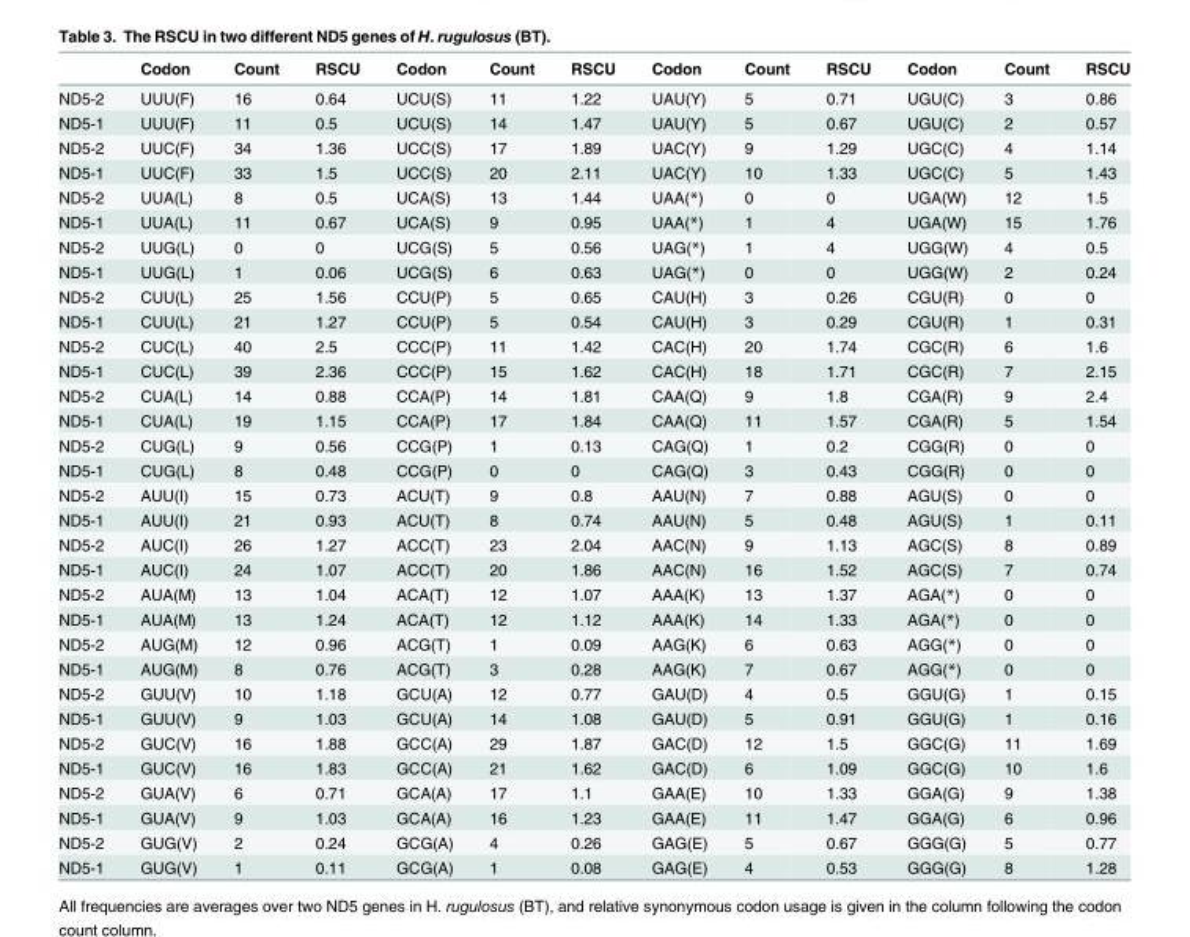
<table><thead><tr><td></td><td>Codon</td><td>Count</td><td>RSCU</td><td>Codon</td><td>Count</td><td>RSCU</td><td>Codon</td><td>Count</td><td>RSCU</td><td>Codon</td><td>Count</td><td>RSCU</td></tr></thead><tbody><tr><td>ND5-2</td><td>UUU(F)</td><td>16</td><td>0.64</td><td>UCU(S)</td><td>11</td><td>1.22</td><td>UAU(Y)</td><td>5</td><td>0.71</td><td>UGU(C)</td><td>3</td><td>0.86</td></tr><tr><td>ND5-1</td><td>UUU(F)</td><td>11</td><td>0.5</td><td>UCU(S)</td><td>14</td><td>1.47</td><td>UAU(Y)</td><td>5</td><td>0.67</td><td>UGU(C)</td><td>2</td><td>0.57</td></tr><tr><td>ND5-2</td><td>UUC(F)</td><td>34</td><td>1.36</td><td>UCC(S)</td><td>17</td><td>1.89</td><td>UAC(Y)</td><td>9</td><td>1.29</td><td>UGC(C)</td><td>4</td><td>1.14</td></tr><tr><td>ND5-1</td><td>UUC(F)</td><td>33</td><td>1.5</td><td>UCC(S)</td><td>20</td><td>2.11</td><td>UAC(Y)</td><td>10</td><td>1.33</td><td>UGC(C)</td><td>5</td><td>1.43</td></tr><tr><td>ND5-2</td><td>UUA(L)</td><td>8</td><td>0.5</td><td>UCA(S)</td><td>13</td><td>1.44</td><td>UAA(*)</td><td>0</td><td>0</td><td>UGA(W)</td><td>12</td><td>1.5</td></tr><tr><td>ND5-1</td><td>UUA(L)</td><td>11</td><td>0.67</td><td>UCA(S)</td><td>9</td><td>0.95</td><td>UAA(*)</td><td>1</td><td>4</td><td>UGA(W)</td><td>15</td><td>1.76</td></tr><tr><td>ND5-2</td><td>UUG(L)</td><td>0</td><td>0</td><td>UCG(S)</td><td>5</td><td>0.56</td><td>UAG(*)</td><td>1</td><td>4</td><td>UGG(W)</td><td>4</td><td>0.5</td></tr><tr><td>ND5-1</td><td>UUG(L)</td><td>1</td><td>0.06</td><td>UCG(S)</td><td>6</td><td>0.63</td><td>UAG(*)</td><td>0</td><td>0</td><td>UGG(W)</td><td>2</td><td>0.24</td></tr><tr><td>ND5-2</td><td>CUU(L)</td><td>25</td><td>1.56</td><td>CCU(P)</td><td>5</td><td>0.65</td><td>CAU(H)</td><td>3</td><td>0.26</td><td>CGU(R)</td><td>0</td><td>0</td></tr><tr><td>ND5-1</td><td>CUU(L)</td><td>21</td><td>1.27</td><td>CCU(P)</td><td>5</td><td>0.54</td><td>CAU(H)</td><td>3</td><td>0.29</td><td>CGU(R)</td><td>1</td><td>0.31</td></tr><tr><td>ND5-2</td><td>CUC(L)</td><td>40</td><td>2.5</td><td>CCC(P)</td><td>11</td><td>1.42</td><td>CAC(H)</td><td>20</td><td>1.74</td><td>CGC(R)</td><td>6</td><td>1.6</td></tr><tr><td>ND5-1</td><td>CUC(L)</td><td>39</td><td>2.36</td><td>CCC(P)</td><td>15</td><td>1.62</td><td>CAC(H)</td><td>18</td><td>1.71</td><td>CGC(R)</td><td>7</td><td>2.15</td></tr><tr><td>ND5-2</td><td>CUA(L)</td><td>14</td><td>0.88</td><td>CCA(P)</td><td>14</td><td>1.81</td><td>CAA(Q)</td><td>9</td><td>1.8</td><td>CGA(R)</td><td>9</td><td>2.4</td></tr><tr><td>ND5-1</td><td>CUA(L)</td><td>19</td><td>1.15</td><td>CCA(P)</td><td>17</td><td>1.84</td><td>CAA(Q)</td><td>11</td><td>1.57</td><td>CGA(R)</td><td>5</td><td>1.54</td></tr><tr><td>ND5-2</td><td>CUG(L)</td><td>9</td><td>0.56</td><td>CCG(P)</td><td>1</td><td>0.13</td><td>CAG(Q)</td><td>1</td><td>0.2</td><td>CGG(R)</td><td>0</td><td>0</td></tr><tr><td>ND5-1</td><td>CUG(L)</td><td>8</td><td>0.48</td><td>CCG(P)</td><td>0</td><td>0</td><td>CAG(Q)</td><td>3</td><td>0.43</td><td>CGG(R)</td><td>0</td><td>0</td></tr><tr><td>ND5-2</td><td>AUU(I)</td><td>15</td><td>0.73</td><td>ACU(T)</td><td>9</td><td>0.8</td><td>AAU(N)</td><td>7</td><td>0.88</td><td>AGU(S)</td><td>0</td><td>0</td></tr><tr><td>ND5-1</td><td>AUU(I)</td><td>21</td><td>0.93</td><td>ACU(T)</td><td>8</td><td>0.74</td><td>AAU(N)</td><td>5</td><td>0.48</td><td>AGU(S)</td><td>1</td><td>0.11</td></tr><tr><td>ND5-2</td><td>AUC(I)</td><td>26</td><td>1.27</td><td>ACC(T)</td><td>23</td><td>2.04</td><td>AAC(N)</td><td>9</td><td>1.13</td><td>AGC(S)</td><td>8</td><td>0.89</td></tr><tr><td>ND5-1</td><td>AUC(I)</td><td>24</td><td>1.07</td><td>ACC(T)</td><td>20</td><td>1.86</td><td>AAC(N)</td><td>16</td><td>1.52</td><td>AGC(S)</td><td>7</td><td>0.74</td></tr><tr><td>ND5-2</td><td>AUA(M)</td><td>13</td><td>1.04</td><td>ACA(T)</td><td>12</td><td>1.07</td><td>AAA(K)</td><td>13</td><td>1.37</td><td>AGA(*)</td><td>0</td><td>0</td></tr><tr><td>ND5-1</td><td>AUA(M)</td><td>13</td><td>1.24</td><td>ACA(T)</td><td>12</td><td>1.12</td><td>AAA(K)</td><td>14</td><td>1.33</td><td>AGA(*)</td><td>0</td><td>0</td></tr><tr><td>ND5-2</td><td>AUG(M)</td><td>12</td><td>0.96</td><td>ACG(T)</td><td>1</td><td>0.09</td><td>AAG(K)</td><td>6</td><td>0.63</td><td>AGG(*)</td><td>0</td><td>0</td></tr><tr><td>ND5-1</td><td>AUG(M)</td><td>8</td><td>0.76</td><td>ACG(T)</td><td>3</td><td>0.28</td><td>AAG(K)</td><td>7</td><td>0.67</td><td>AGG(*)</td><td>0</td><td>0</td></tr><tr><td>ND5-2</td><td>GUU(V)</td><td>10</td><td>1.18</td><td>GCU(A)</td><td>12</td><td>0.77</td><td>GAU(D)</td><td>4</td><td>0.5</td><td>GGU(G)</td><td>1</td><td>0.15</td></tr><tr><td>ND5-1</td><td>GUU(V)</td><td>9</td><td>1.03</td><td>GCU(A)</td><td>14</td><td>1.08</td><td>GAU(D)</td><td>5</td><td>0.91</td><td>GGU(G)</td><td>1</td><td>0.16</td></tr><tr><td>ND5-2</td><td>GUC(V)</td><td>16</td><td>1.88</td><td>GCC(A)</td><td>29</td><td>1.87</td><td>GAC(D)</td><td>12</td><td>1.5</td><td>GGC(G)</td><td>11</td><td>1.69</td></tr><tr><td>ND5-1</td><td>GUC(V)</td><td>16</td><td>1.83</td><td>GCC(A)</td><td>21</td><td>1.62</td><td>GAC(D)</td><td>6</td><td>1.09</td><td>GGC(G)</td><td>10</td><td>1.6</td></tr><tr><td>ND5-2</td><td>GUA(V)</td><td>6</td><td>0.71</td><td>GCA(A)</td><td>17</td><td>1.1</td><td>GAA(E)</td><td>10</td><td>1.33</td><td>GGA(G)</td><td>9</td><td>1.38</td></tr><tr><td>ND5-1</td><td>GUA(V)</td><td>9</td><td>1.03</td><td>GCA(A)</td><td>16</td><td>1.23</td><td>GAA(E)</td><td>11</td><td>1.47</td><td>GGA(G)</td><td>6</td><td>0.96</td></tr><tr><td>ND5-2</td><td>GUG(V)</td><td>2</td><td>0.24</td><td>GCG(A)</td><td>4</td><td>0.26</td><td>GAG(E)</td><td>5</td><td>0.67</td><td>GGG(G)</td><td>5</td><td>0.77</td></tr><tr><td>ND5-1</td><td>GUG(V)</td><td>1</td><td>0.11</td><td>GCG(A)</td><td>1</td><td>0.08</td><td>GAG(E)</td><td>4</td><td>0.53</td><td>GGG(G)</td><td>8</td><td>1.28</td></tr></tbody></table>